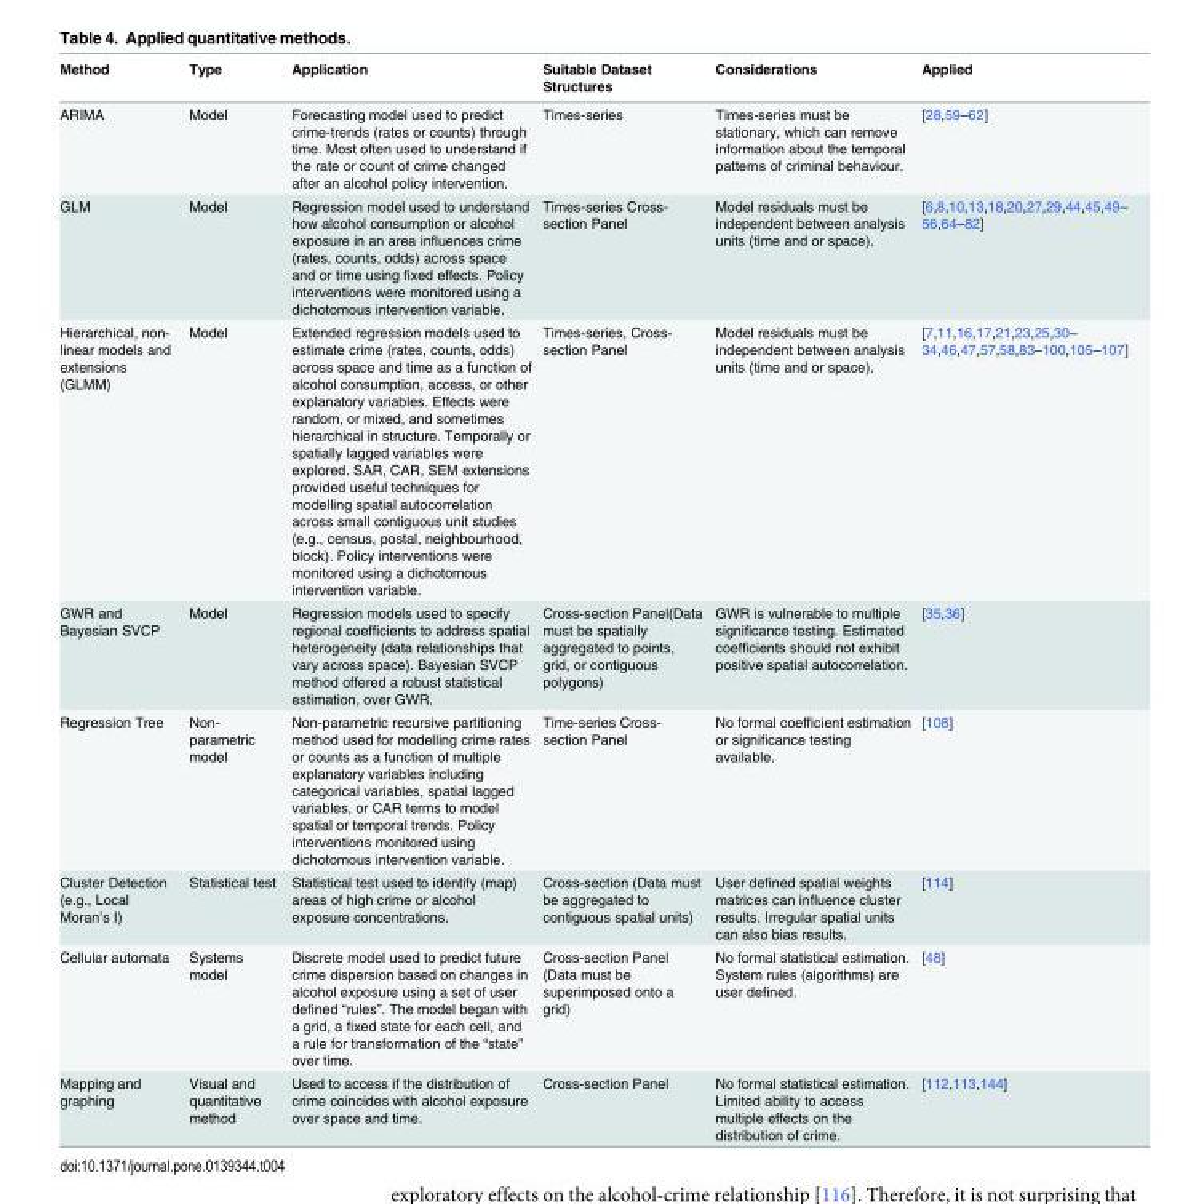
<table><thead><tr><td>Method</td><td>Type</td><td>Application</td><td>Suitable Dataset Structures</td><td>Considerations</td><td>Applied</td></tr></thead><tbody><tr><td>ARIMA</td><td>Model</td><td>Forecasting model used to predict crime-trends (rates or counts) through time. Most often used to understand if the rate or count of crime changed after an alcohol policy intervention.</td><td>Times-series</td><td>Times-series must be stationary, which can remove information about the temporal patterns of criminal behaviour.</td><td>[28,59–62]</td></tr><tr><td>GLM</td><td>Model</td><td>Regression model used to understand how alcohol consumption or alcohol exposure in an area influences crime (rates, counts, odds) across space and or time using fixed effects. Policy interventions were monitored using a dichotomous intervention variable.</td><td>Times-series Cross- section Panel</td><td>Model residuals must be independent between analysis units (time and or space).</td><td>[6,8,10,13,18,20,27,29,44,45,49– 56,64–82]</td></tr><tr><td>Hierarchical, non- linear models and extensions (GLMM)</td><td>Model</td><td>Extended regression models used to estimate crime (rates, counts, odds) across space and time as a function of alcohol consumption, access, or other explanatory variables. Effects were random, or mixed, and sometimes hierarchical in structure. Temporally or spatially lagged variables were explored. SAR, CAR, SEM extensions provided useful techniques for modelling spatial autocorrelation across small contiguous unit studies (e.g., census, postal, neighbourhood, block). Policy interventions were monitored using a dichotomous intervention variable.</td><td>Times-series, Cross- section Panel</td><td>Model residuals must be independent between analysis units (time and or space).</td><td>[7,11,16,17,21,23,25,30– 34,46,47,57,58,83–100,105–107]</td></tr><tr><td>GWR and Bayesian SVCP</td><td>Model</td><td>Regression models used to specify regional coefficients to address spatial heterogeneity (data relationships that vary across space). Bayesian SVCP method offered a robust statistical estimation, over GWR.</td><td>Cross-section Panel(Data must be spatially aggregated to points, grid, or contiguous polygons)</td><td>GWR is vulnerable to multiple significance testing. Estimated coefficients should not exhibit positive spatial autocorrelation.</td><td>[35,36]</td></tr><tr><td>Regression Tree</td><td>Non- parametric model</td><td>Non-parametric recursive partitioning method used for modelling crime rates or counts as a function of multiple explanatory variables including categorical variables, spatial lagged variables, or CAR terms to model spatial or temporal trends. Policy interventions monitored using dichotomous intervention variable.</td><td>Time-series Cross- section Panel</td><td>No formal coefficient estimation or significance testing available.</td><td>[108]</td></tr><tr><td>Cluster Detection (e.g., Local Moran’s I)</td><td>Statistical test</td><td>Statistical test used to identify (map) areas of high crime or alcohol exposure concentrations.</td><td>Cross-section (Data must be aggregated to contiguous spatial units)</td><td>User defined spatial weights matrices can influence cluster results. Irregular spatial units can also bias results.</td><td>[114]</td></tr><tr><td>Cellular automata</td><td>Systems model</td><td>Discrete model used to predict future crime dispersion based on changes in alcohol exposure using a set of user defined “rules”. The model began with a grid, a fixed state for each cell, and a rule for transformation of the “state” over time.</td><td>Cross-section Panel (Data must be superimposed onto a grid)</td><td>No formal statistical estimation. System rules (algorithms) are user defined.</td><td>[48]</td></tr><tr><td>Mapping and graphing</td><td>Visual and quantitative method</td><td>Used to access if the distribution of crime coincides with alcohol exposure over space and time.</td><td>Cross-section Panel</td><td>No formal statistical estimation. Limited ability to access multiple effects on the distribution of crime.</td><td>[112,113,144]</td></tr></tbody></table>